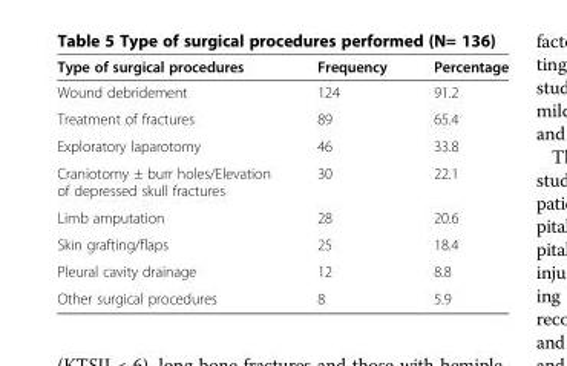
<table><thead><tr><td>Type of surgical procedures</td><td>Frequency</td><td>Percentage</td></tr></thead><tbody><tr><td>Wound debridement</td><td>124</td><td>91.2</td></tr><tr><td>Treatment of fractures</td><td>89</td><td>65.4</td></tr><tr><td>Exploratory laparotomy</td><td>46</td><td>33.8</td></tr><tr><td>Craniotomy ± burr holes/Elevation of depressed skull fractures</td><td>30</td><td>22.1</td></tr><tr><td>Limb amputation</td><td>28</td><td>20.6</td></tr><tr><td>Skin grafting/flaps</td><td>25</td><td>18.4</td></tr><tr><td>Pleural cavity drainage</td><td>12</td><td>8.8</td></tr><tr><td>Other surgical procedures</td><td>8</td><td>5.9</td></tr></tbody></table>